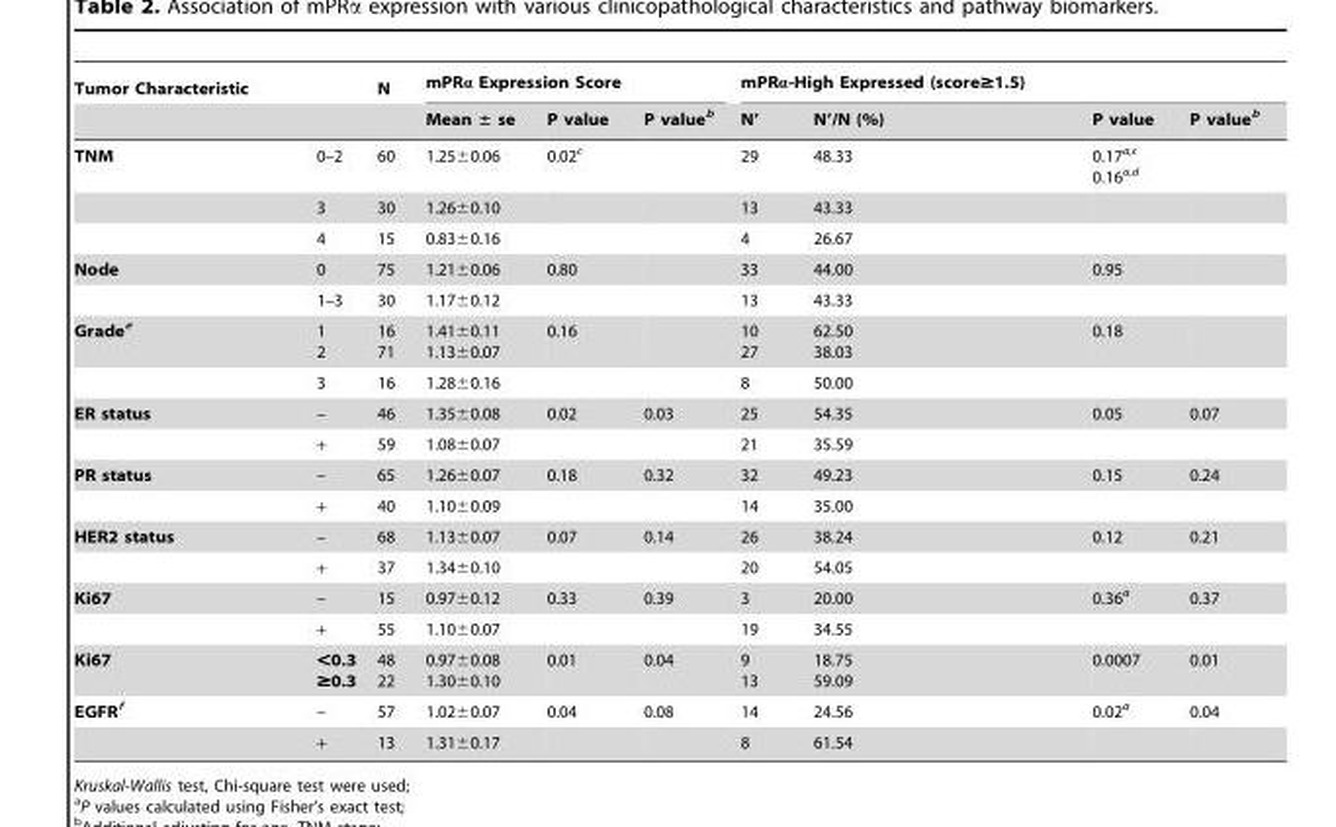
<table><thead><tr><td rowspan="2">Tumor Characteristic</td><td rowspan="2"></td><td rowspan="2">N</td><td colspan="3">mPRα Expression Score</td><td colspan="4">mPRα-High Expressed (score≥1.5)</td></tr><tr><td>Mean ± se</td><td>P value</td><td>P value<sup>b</sup></td><td>N’</td><td>N’/N (%)</td><td>P value</td><td>P value<sup>b</sup></td></tr></thead><tbody><tr><td rowspan="3">TNM</td><td>0–2</td><td>60</td><td>1.25±0.06</td><td>0.02<sup>c</sup></td><td></td><td>29</td><td>48.33</td><td>0.17a,c 0.16a,d</td><td></td></tr><tr><td>3</td><td>30</td><td>1.26±0.10</td><td></td><td></td><td>13</td><td>43.33</td><td></td><td></td></tr><tr><td>4</td><td>15</td><td>0.83±0.16</td><td></td><td></td><td>4</td><td>26.67</td><td></td><td></td></tr><tr><td rowspan="2">Node</td><td>0</td><td>75</td><td>1.21±0.06</td><td>0.80</td><td></td><td>33</td><td>44.00</td><td>0.95</td><td></td></tr><tr><td>1–3</td><td>30</td><td>1.17±0.12</td><td></td><td></td><td>13</td><td>43.33</td><td></td><td></td></tr><tr><td rowspan="2">Gradee</td><td>1 2</td><td>16 71</td><td>1.41±0.11 1.13±0.07</td><td>0.16</td><td></td><td>10 27</td><td>62.50 38.03</td><td>0.18</td><td></td></tr><tr><td>3</td><td>16</td><td>1.28±0.16</td><td></td><td></td><td>8</td><td>50.00</td><td></td><td></td></tr><tr><td rowspan="2">ER status</td><td>–</td><td>46</td><td>1.35±0.08</td><td>0.02</td><td>0.03</td><td>25</td><td>54.35</td><td>0.05</td><td>0.07</td></tr><tr><td>+</td><td>59</td><td>1.08±0.07</td><td></td><td></td><td>21</td><td>35.59</td><td></td><td></td></tr><tr><td rowspan="2">PR status</td><td>–</td><td>65</td><td>1.26±0.07</td><td>0.18</td><td>0.32</td><td>32</td><td>49.23</td><td>0.15</td><td>0.24</td></tr><tr><td>+</td><td>40</td><td>1.10±0.09</td><td></td><td></td><td>14</td><td>35.00</td><td></td><td></td></tr><tr><td rowspan="2">HER2 status</td><td>–</td><td>68</td><td>1.13±0.07</td><td>0.07</td><td>0.14</td><td>26</td><td>38.24</td><td>0.12</td><td>0.21</td></tr><tr><td>+</td><td>37</td><td>1.34±0.10</td><td></td><td></td><td>20</td><td>54.05</td><td></td><td></td></tr><tr><td rowspan="2">Ki67</td><td>–</td><td>15</td><td>0.97±0.12</td><td>0.33</td><td>0.39</td><td>3</td><td>20.00</td><td>0.36<sup>a</sup></td><td>0.37</td></tr><tr><td>+</td><td>55</td><td>1.10±0.07</td><td></td><td></td><td>19</td><td>34.55</td><td></td><td></td></tr><tr><td>Ki67</td><td>&lt;0.3 ≥0.3</td><td>48 22</td><td>0.97±0.08 1.30±0.10</td><td>0.01</td><td>0.04</td><td>9 13</td><td>18.75 59.09</td><td>0.0007</td><td>0.01</td></tr><tr><td rowspan="2">EGFR<sup>f</sup></td><td>–</td><td>57</td><td>1.02±0.07</td><td>0.04</td><td>0.08</td><td>14</td><td>24.56</td><td>0.02<sup>a</sup></td><td>0.04</td></tr><tr><td>+</td><td>13</td><td>1.31±0.17</td><td></td><td></td><td>8</td><td>61.54</td><td></td><td></td></tr></tbody></table>